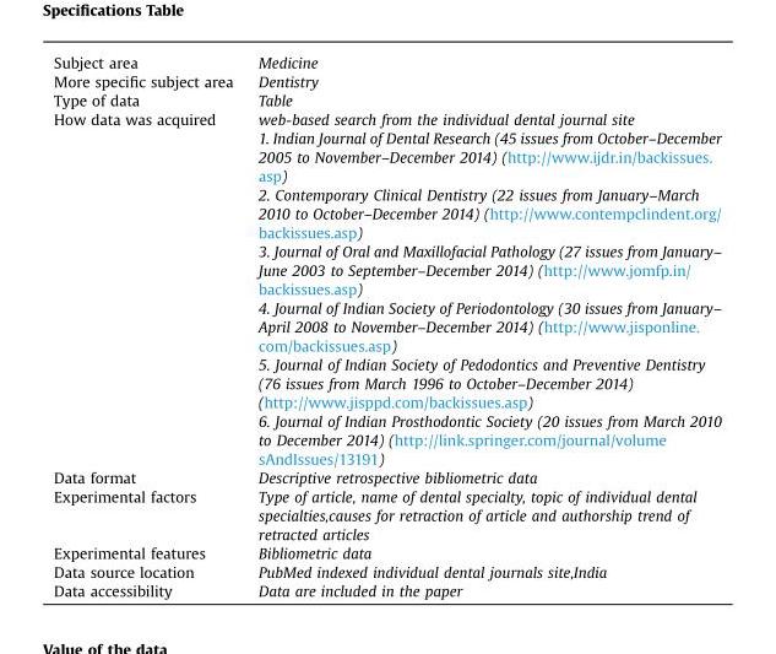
<table><tbody><tr><td>Subject area</td><td>Medicine</td></tr><tr><td>More specific subject area</td><td>Dentistry</td></tr><tr><td>Type of data</td><td>Table</td></tr><tr><td rowspan="8">How data was acquired</td><td>web-based search from the individual dental journal site</td></tr><tr><td>1. Indian Journal of Dental Research (45 issues from October–December 2005 to November–December 2014) (http://www.ijdr.in/backissues. asp)</td></tr><tr><td>2. Contemporary Clinical Dentistry (22 issues from January–March 2010 to October–December 2014) (http://www.contempclindent.org/ backissues.asp)</td></tr><tr><td>3. Journal of Oral and Maxillofacial Pathology (27 issues from January– June 2003 to September–December 2014) (http://www.jomfp.in/ backissues.asp)</td></tr><tr><td>4. Journal of Indian Society of Periodontology (30 issues from January– April 2008 to November–December 2014) (http://www.jisponline. com/backissues.asp)</td></tr><tr><td>5. Journal of Indian Society of Pedodontics and Preventive Dentistry (76 issues from March 1996 to October–December 2014)</td></tr><tr><td>(http://www.jisppd.com/backissues.asp)</td></tr><tr><td>6. Journal of Indian Prosthodontic Society (20 issues from March 2010 to December 2014) (http://link.springer.com/journal/volume sAndIssues/13191)</td></tr><tr><td>Data format</td><td>Descriptive retrospective bibliometric data</td></tr><tr><td>Experimental factors</td><td>Type of article, name of dental specialty, topic of individual dental specialties,causes for retraction of article and authorship trend of retracted articles</td></tr><tr><td>Experimental features</td><td>Bibliometric data</td></tr><tr><td>Data source location</td><td>PubMed indexed individual dental journals site,India</td></tr><tr><td>Data accessibility</td><td>Data are included in the paper</td></tr></tbody></table>